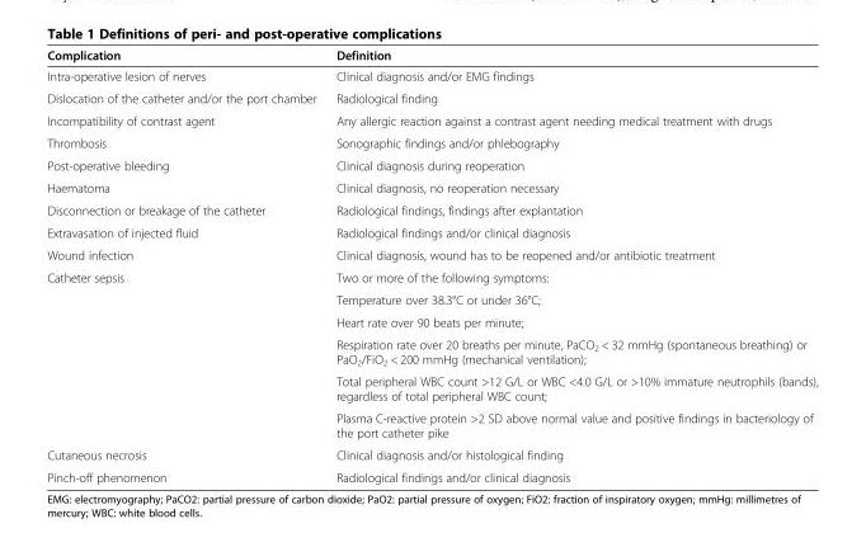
<table><thead><tr><td>Complication</td><td>Definition</td></tr></thead><tbody><tr><td>Intra-operative lesion of nerves</td><td>Clinical diagnosis and/or EMG findings</td></tr><tr><td>Dislocation of the catheter and/or the port chamber</td><td>Radiological finding</td></tr><tr><td>Incompatibility of contrast agent</td><td>Any allergic reaction against a contrast agent needing medical treatment with drugs</td></tr><tr><td>Thrombosis</td><td>Sonographic findings and/or phlebography</td></tr><tr><td>Post-operative bleeding</td><td>Clinical diagnosis during reoperation</td></tr><tr><td>Haematoma</td><td>Clinical diagnosis, no reoperation necessary</td></tr><tr><td>Disconnection or breakage of the catheter</td><td>Radiological findings, findings after explantation</td></tr><tr><td>Extravasation of injected fluid</td><td>Radiological findings and/or clinical diagnosis</td></tr><tr><td>Wound infection</td><td>Clinical diagnosis, wound has to be reopened and/or antibiotic treatment</td></tr><tr><td rowspan="6">Catheter sepsis</td><td>Two or more of the following symptoms:</td></tr><tr><td>Temperature over 38.3°C or under 36°C;</td></tr><tr><td>Heart rate over 90 beats per minute;</td></tr><tr><td>Respiration rate over 20 breaths per minute, PaCO<sub>2</sub> &lt; 32 mmHg (spontaneous breathing) or PaO<sub>2</sub>/FiO<sub>2</sub> &lt; 200 mmHg (mechanical ventilation);</td></tr><tr><td>Total peripheral WBC count &gt;12 G/L or WBC &lt;4.0 G/L or &gt;10% immature neutrophils (bands), regardless of total peripheral WBC count;</td></tr><tr><td>Plasma C-reactive protein &gt;2 SD above normal value and positive findings in bacteriology of the port catheter pike</td></tr><tr><td>Cutaneous necrosis</td><td>Clinical diagnosis and/or histological finding</td></tr><tr><td>Pinch-off phenomenon</td><td>Radiological findings and/or clinical diagnosis</td></tr></tbody></table>